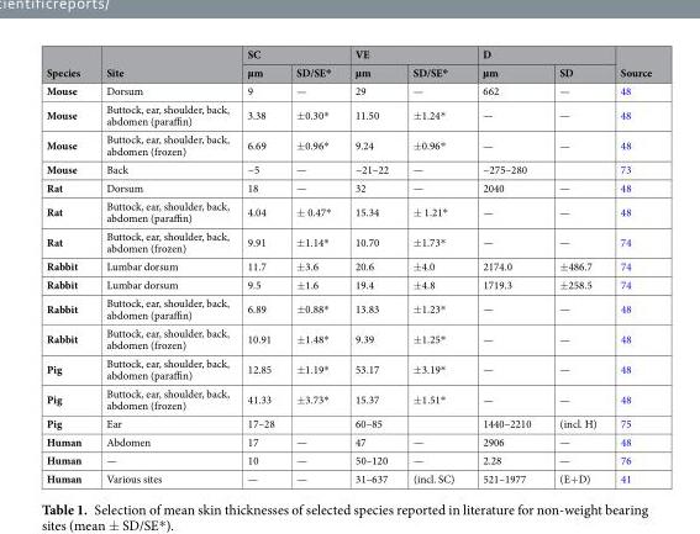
<table><thead><tr><td rowspan="2">Species</td><td rowspan="2">Site</td><td colspan="2">SC</td><td colspan="2">VE</td><td colspan="2">D</td><td rowspan="2">Source</td></tr><tr><td>µm</td><td>SD/SE*</td><td>µm</td><td>SD/SE*</td><td>µm</td><td>SD</td></tr></thead><tbody><tr><td>Mouse</td><td>Dorsum</td><td>9</td><td>—</td><td>29</td><td>—</td><td>662</td><td>—</td><td>48</td></tr><tr><td>Mouse</td><td>Buttock, ear, shoulder, back, abdomen (paraffin)</td><td>3.38</td><td>±0.30*</td><td>11.50</td><td>±1.24*</td><td>—</td><td>—</td><td>48</td></tr><tr><td>Mouse</td><td>Buttock, ear, shoulder, back, abdomen (frozen)</td><td>6.69</td><td>±0.96*</td><td>9.24</td><td>±0.96*</td><td>—</td><td>—</td><td>48</td></tr><tr><td>Mouse</td><td>Back</td><td>~5</td><td>—</td><td>~21–22</td><td>—</td><td>~275–280</td><td></td><td>73</td></tr><tr><td>Rat</td><td>Dorsum</td><td>18</td><td>—</td><td>32</td><td>—</td><td>2040</td><td>—</td><td>48</td></tr><tr><td>Rat</td><td>Buttock, ear, shoulder, back, abdomen (paraffin)</td><td>4.04</td><td>± 0.47*</td><td>15.34</td><td>± 1.21*</td><td>—</td><td>—</td><td>48</td></tr><tr><td>Rat</td><td>Buttock, ear, shoulder, back, abdomen (frozen)</td><td>9.91</td><td>±1.14*</td><td>10.70</td><td>±1.73*</td><td>—</td><td>—</td><td>74</td></tr><tr><td>Rabbit</td><td>Lumbar dorsum</td><td>11.7</td><td>±3.6</td><td>20.6</td><td>±4.0</td><td>2174.0</td><td>±486.7</td><td>74</td></tr><tr><td>Rabbit</td><td>Lumbar dorsum</td><td>9.5</td><td>±1.6</td><td>19.4</td><td>±4.8</td><td>1719.3</td><td>±258.5</td><td>74</td></tr><tr><td>Rabbit</td><td>Buttock, ear, shoulder, back, abdomen (paraffin)</td><td>6.89</td><td>±0.88*</td><td>13.83</td><td>±1.23*</td><td>—</td><td>—</td><td>48</td></tr><tr><td>Rabbit</td><td>Buttock, ear, shoulder, back, abdomen (frozen)</td><td>10.91</td><td>±1.48*</td><td>9.39</td><td>±1.25*</td><td>—</td><td>—</td><td>48</td></tr><tr><td>Pig</td><td>Buttock, ear, shoulder, back, abdomen (paraffin)</td><td>12.85</td><td>±1.19*</td><td>53.17</td><td>±3.19*</td><td>—</td><td>—</td><td>48</td></tr><tr><td>Pig</td><td>Buttock, ear, shoulder, back, abdomen (frozen)</td><td>41.33</td><td>±3.73*</td><td>15.37</td><td>±1.51*</td><td>—</td><td>—</td><td>48</td></tr><tr><td>Pig</td><td>Ear</td><td>17–28</td><td></td><td>60–85</td><td></td><td>1440–2210</td><td>(incl. H)</td><td>75</td></tr><tr><td>Human</td><td>Abdomen</td><td>17</td><td>—</td><td>47</td><td>—</td><td>2906</td><td>—</td><td>48</td></tr><tr><td>Human</td><td>—</td><td>10</td><td>—</td><td>50–120</td><td>—</td><td>2.28</td><td>—</td><td>76</td></tr><tr><td>Human</td><td>Various sites</td><td>—</td><td>—</td><td>31–637</td><td>(incl. SC)</td><td>521–1977</td><td>(E+D)</td><td>41</td></tr></tbody></table>